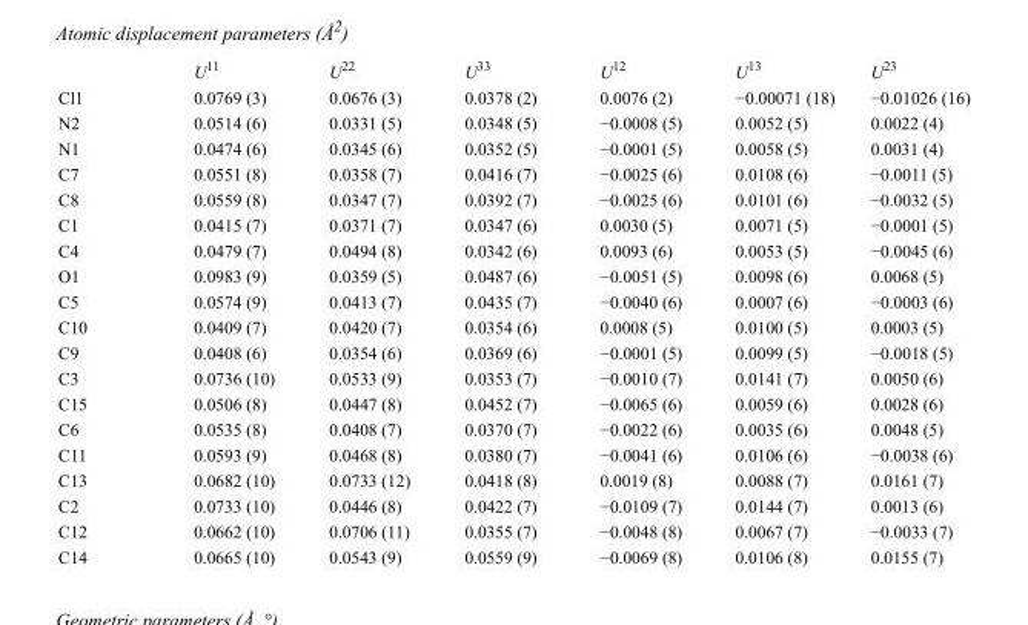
<table><thead><tr><td></td><td>U<sup>11</sup></td><td>U<sup>22</sup></td><td>U<sup>33</sup></td><td>U<sup>12</sup></td><td>U<sup>13</sup></td><td>U<sup>23</sup></td></tr></thead><tbody><tr><td>Cl1</td><td>0.0769 (3)</td><td>0.0676 (3)</td><td>0.0378 (2)</td><td>0.0076 (2)</td><td>−0.00071 (18)</td><td>−0.01026 (16)</td></tr><tr><td>N2</td><td>0.0514 (6)</td><td>0.0331 (5)</td><td>0.0348 (5)</td><td>−0.0008 (5)</td><td>0.0052 (5)</td><td>0.0022 (4)</td></tr><tr><td>N1</td><td>0.0474 (6)</td><td>0.0345 (6)</td><td>0.0352 (5)</td><td>−0.0001 (5)</td><td>0.0058 (5)</td><td>0.0031 (4)</td></tr><tr><td>C7</td><td>0.0551 (8)</td><td>0.0358 (7)</td><td>0.0416 (7)</td><td>−0.0025 (6)</td><td>0.0108 (6)</td><td>−0.0011 (5)</td></tr><tr><td>C8</td><td>0.0559 (8)</td><td>0.0347 (7)</td><td>0.0392 (7)</td><td>−0.0025 (6)</td><td>0.0101 (6)</td><td>−0.0032 (5)</td></tr><tr><td>C1</td><td>0.0415 (7)</td><td>0.0371 (7)</td><td>0.0347 (6)</td><td>0.0030 (5)</td><td>0.0071 (5)</td><td>−0.0001 (5)</td></tr><tr><td>C4</td><td>0.0479 (7)</td><td>0.0494 (8)</td><td>0.0342 (6)</td><td>0.0093 (6)</td><td>0.0053 (5)</td><td>−0.0045 (6)</td></tr><tr><td>O1</td><td>0.0983 (9)</td><td>0.0359 (5)</td><td>0.0487 (6)</td><td>−0.0051 (5)</td><td>0.0098 (6)</td><td>0.0068 (5)</td></tr><tr><td>C5</td><td>0.0574 (9)</td><td>0.0413 (7)</td><td>0.0435 (7)</td><td>−0.0040 (6)</td><td>0.0007 (6)</td><td>−0.0003 (6)</td></tr><tr><td>C10</td><td>0.0409 (7)</td><td>0.0420 (7)</td><td>0.0354 (6)</td><td>0.0008 (5)</td><td>0.0100 (5)</td><td>0.0003 (5)</td></tr><tr><td>C9</td><td>0.0408 (6)</td><td>0.0354 (6)</td><td>0.0369 (6)</td><td>−0.0001 (5)</td><td>0.0099 (5)</td><td>−0.0018 (5)</td></tr><tr><td>C3</td><td>0.0736 (10)</td><td>0.0533 (9)</td><td>0.0353 (7)</td><td>−0.0010 (7)</td><td>0.0141 (7)</td><td>0.0050 (6)</td></tr><tr><td>C15</td><td>0.0506 (8)</td><td>0.0447 (8)</td><td>0.0452 (7)</td><td>−0.0065 (6)</td><td>0.0059 (6)</td><td>0.0028 (6)</td></tr><tr><td>C6</td><td>0.0535 (8)</td><td>0.0408 (7)</td><td>0.0370 (7)</td><td>−0.0022 (6)</td><td>0.0035 (6)</td><td>0.0048 (5)</td></tr><tr><td>C11</td><td>0.0593 (9)</td><td>0.0468 (8)</td><td>0.0380 (7)</td><td>−0.0041 (6)</td><td>0.0106 (6)</td><td>−0.0038 (6)</td></tr><tr><td>C13</td><td>0.0682 (10)</td><td>0.0733 (12)</td><td>0.0418 (8)</td><td>0.0019 (8)</td><td>0.0088 (7)</td><td>0.0161 (7)</td></tr><tr><td>C2</td><td>0.0733 (10)</td><td>0.0446 (8)</td><td>0.0422 (7)</td><td>−0.0109 (7)</td><td>0.0144 (7)</td><td>0.0013 (6)</td></tr><tr><td>C12</td><td>0.0662 (10)</td><td>0.0706 (11)</td><td>0.0355 (7)</td><td>−0.0048 (8)</td><td>0.0067 (7)</td><td>−0.0033 (7)</td></tr><tr><td>C14</td><td>0.0665 (10)</td><td>0.0543 (9)</td><td>0.0559 (9)</td><td>−0.0069 (8)</td><td>0.0106 (8)</td><td>0.0155 (7)</td></tr></tbody></table>